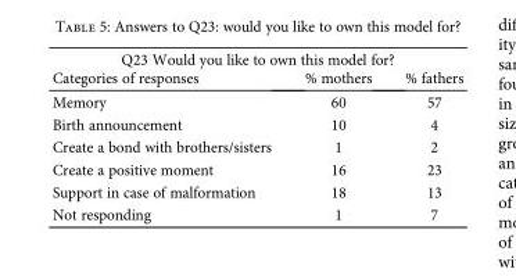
<table><thead><tr><td colspan="3">Q23 Would you like to own this model for?</td></tr><tr><td>Categories of responses</td><td>% mothers</td><td>% fathers</td></tr></thead><tbody><tr><td>Memory</td><td>60</td><td>57</td></tr><tr><td>Birth announcement</td><td>10</td><td>4</td></tr><tr><td>Create a bond with brothers/sisters</td><td>1</td><td>2</td></tr><tr><td>Create a positive moment</td><td>16</td><td>23</td></tr><tr><td>Support in case of malformation</td><td>18</td><td>13</td></tr><tr><td>Not responding</td><td>1</td><td>7</td></tr></tbody></table>